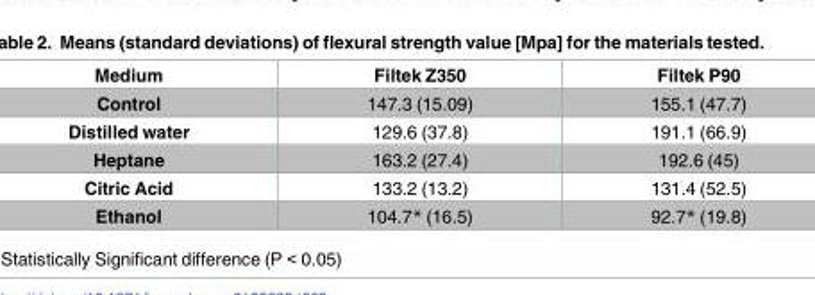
<table><thead><tr><td>Medium</td><td>Filtek Z350</td><td>Filtek P90</td></tr></thead><tbody><tr><td>Control</td><td>147.3 (15.09)</td><td>155.1 (47.7)</td></tr><tr><td>Distilled water</td><td>129.6 (37.8)</td><td>191.1 (66.9)</td></tr><tr><td>Heptane</td><td>163.2 (27.4)</td><td>192.6 (45)</td></tr><tr><td>Citric Acid</td><td>133.2 (13.2)</td><td>131.4 (52.5)</td></tr><tr><td>Ethanol</td><td>104.7* (16.5)</td><td>92.7* (19.8)</td></tr></tbody></table>